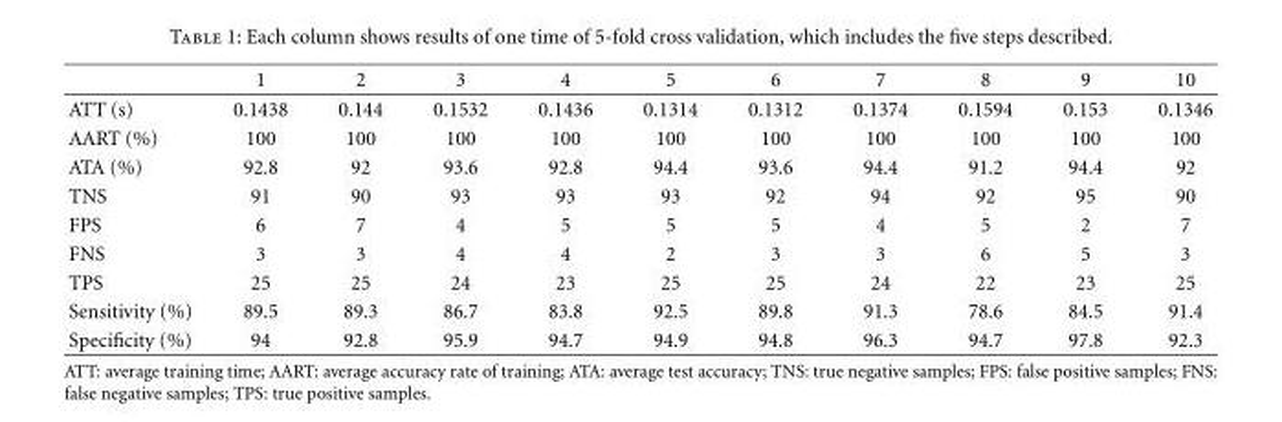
<table><thead><tr><td></td><td>1</td><td>2</td><td>3</td><td>4</td><td>5</td><td>6</td><td>7</td><td>8</td><td>9</td><td>10</td></tr></thead><tbody><tr><td>ATT (s)</td><td>0.1438</td><td>0.144</td><td>0.1532</td><td>0.1436</td><td>0.1314</td><td>0.1312</td><td>0.1374</td><td>0.1594</td><td>0.153</td><td>0.1346</td></tr><tr><td>AART (%)</td><td>100</td><td>100</td><td>100</td><td>100</td><td>100</td><td>100</td><td>100</td><td>100</td><td>100</td><td>100</td></tr><tr><td>ATA (%)</td><td>92.8</td><td>92</td><td>93.6</td><td>92.8</td><td>94.4</td><td>93.6</td><td>94.4</td><td>91.2</td><td>94.4</td><td>92</td></tr><tr><td>TNS</td><td>91</td><td>90</td><td>93</td><td>93</td><td>93</td><td>92</td><td>94</td><td>92</td><td>95</td><td>90</td></tr><tr><td>FPS</td><td>6</td><td>7</td><td>4</td><td>5</td><td>5</td><td>5</td><td>4</td><td>5</td><td>2</td><td>7</td></tr><tr><td>FNS</td><td>3</td><td>3</td><td>4</td><td>4</td><td>2</td><td>3</td><td>3</td><td>6</td><td>5</td><td>3</td></tr><tr><td>TPS</td><td>25</td><td>25</td><td>24</td><td>23</td><td>25</td><td>25</td><td>24</td><td>22</td><td>23</td><td>25</td></tr><tr><td>Sensitivity (%)</td><td>89.5</td><td>89.3</td><td>86.7</td><td>83.8</td><td>92.5</td><td>89.8</td><td>91.3</td><td>78.6</td><td>84.5</td><td>91.4</td></tr><tr><td>Specificity (%)</td><td>94</td><td>92.8</td><td>95.9</td><td>94.7</td><td>94.9</td><td>94.8</td><td>96.3</td><td>94.7</td><td>97.8</td><td>92.3</td></tr></tbody></table>